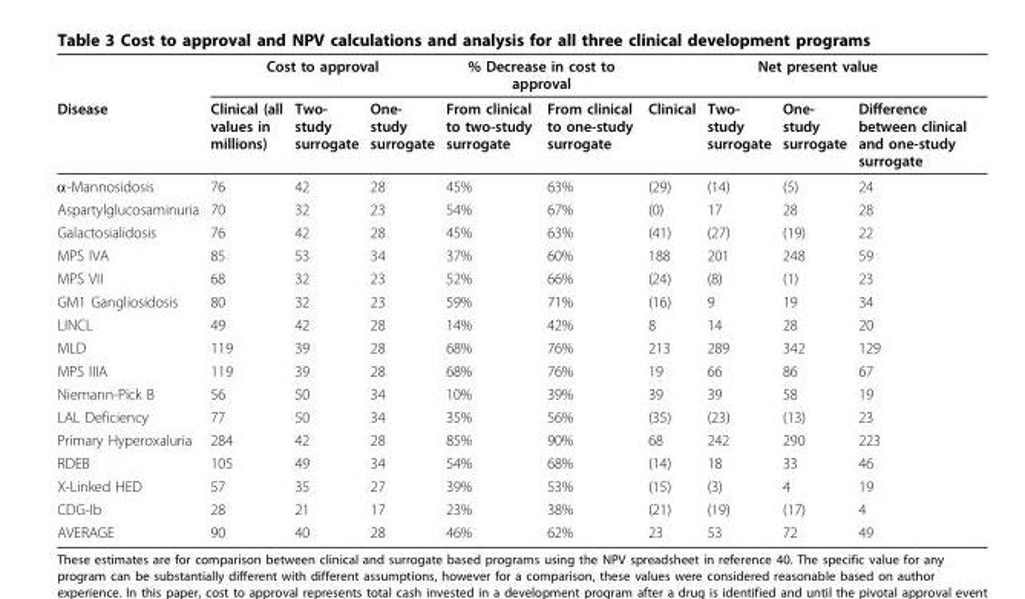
<table><thead><tr><td rowspan="2">Disease</td><td colspan="3">Cost to approval</td><td colspan="2">% Decrease in cost to approval</td><td colspan="4">Net present value</td></tr><tr><td>Clinical (all values in millions)</td><td>Two- study surrogate</td><td>One- study surrogate</td><td>From clinical to two-study surrogate</td><td>From clinical to one-study surrogate</td><td>Clinical</td><td>Two- study surrogate</td><td>One- study surrogate</td><td>Difference between clinical and one-study surrogate</td></tr></thead><tbody><tr><td>α-Mannosidosis</td><td>76</td><td>42</td><td>28</td><td>45%</td><td>63%</td><td>(29)</td><td>(14)</td><td>(5)</td><td>24</td></tr><tr><td>Aspartylglucosaminuria</td><td>70</td><td>32</td><td>23</td><td>54%</td><td>67%</td><td>(0)</td><td>17</td><td>28</td><td>28</td></tr><tr><td>Galactosialidosis</td><td>76</td><td>42</td><td>28</td><td>45%</td><td>63%</td><td>(41)</td><td>(27)</td><td>(19)</td><td>22</td></tr><tr><td>MPS IVA</td><td>85</td><td>53</td><td>34</td><td>37%</td><td>60%</td><td>188</td><td>201</td><td>248</td><td>59</td></tr><tr><td>MPS VII</td><td>68</td><td>32</td><td>23</td><td>52%</td><td>66%</td><td>(24)</td><td>(8)</td><td>(1)</td><td>23</td></tr><tr><td>GM1 Gangliosidosis</td><td>80</td><td>32</td><td>23</td><td>59%</td><td>71%</td><td>(16)</td><td>9</td><td>19</td><td>34</td></tr><tr><td>LINCL</td><td>49</td><td>42</td><td>28</td><td>14%</td><td>42%</td><td>8</td><td>14</td><td>28</td><td>20</td></tr><tr><td>MLD</td><td>119</td><td>39</td><td>28</td><td>68%</td><td>76%</td><td>213</td><td>289</td><td>342</td><td>129</td></tr><tr><td>MPS IIIA</td><td>119</td><td>39</td><td>28</td><td>68%</td><td>76%</td><td>19</td><td>66</td><td>86</td><td>67</td></tr><tr><td>Niemann-Pick B</td><td>56</td><td>50</td><td>34</td><td>10%</td><td>39%</td><td>39</td><td>39</td><td>58</td><td>19</td></tr><tr><td>LAL Deficiency</td><td>77</td><td>50</td><td>34</td><td>35%</td><td>56%</td><td>(35)</td><td>(23)</td><td>(13)</td><td>23</td></tr><tr><td>Primary Hyperoxaluria</td><td>284</td><td>42</td><td>28</td><td>85%</td><td>90%</td><td>68</td><td>242</td><td>290</td><td>223</td></tr><tr><td>RDEB</td><td>105</td><td>49</td><td>34</td><td>54%</td><td>68%</td><td>(14)</td><td>18</td><td>33</td><td>46</td></tr><tr><td>X-Linked HED</td><td>57</td><td>35</td><td>27</td><td>39%</td><td>53%</td><td>(15)</td><td>(3)</td><td>4</td><td>19</td></tr><tr><td>CDG-Ib</td><td>28</td><td>21</td><td>17</td><td>23%</td><td>38%</td><td>(21)</td><td>(19)</td><td>(17)</td><td>4</td></tr><tr><td>AVERAGE</td><td>90</td><td>40</td><td>28</td><td>46%</td><td>62%</td><td>23</td><td>53</td><td>72</td><td>49</td></tr></tbody></table>